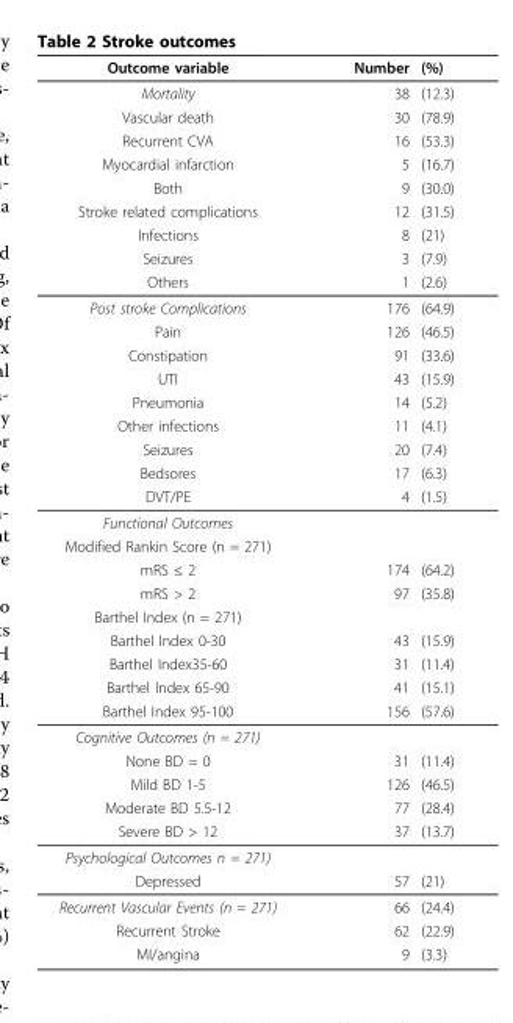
<table><thead><tr><td>Outcome variable</td><td>Number</td><td>(%)</td></tr></thead><tbody><tr><td>Mortality</td><td>38</td><td>(12.3)</td></tr><tr><td>Vascular death</td><td>30</td><td>(78.9)</td></tr><tr><td>Recurrent CVA</td><td>16</td><td>(53.3)</td></tr><tr><td>Myocardial infarction</td><td>5</td><td>(16.7)</td></tr><tr><td>Both</td><td>9</td><td>(30.0)</td></tr><tr><td>Stroke related complications</td><td>12</td><td>(31.5)</td></tr><tr><td>Infections</td><td>8</td><td>(21)</td></tr><tr><td>Seizures</td><td>3</td><td>(7.9)</td></tr><tr><td>Others</td><td>1</td><td>(2.6)</td></tr><tr><td>Post stroke Complications</td><td>176</td><td>(64.9)</td></tr><tr><td>Pain</td><td>126</td><td>(46.5)</td></tr><tr><td>Constipation</td><td>91</td><td>(33.6)</td></tr><tr><td>UTI</td><td>43</td><td>(15.9)</td></tr><tr><td>Pneumonia</td><td>14</td><td>(5.2)</td></tr><tr><td>Other infections</td><td>11</td><td>(4.1)</td></tr><tr><td>Seizures</td><td>20</td><td>(7.4)</td></tr><tr><td>Bedsores</td><td>17</td><td>(6.3)</td></tr><tr><td>DVT/PE</td><td>4</td><td>(1.5)</td></tr><tr><td colspan="3">Functional Outcomes</td></tr><tr><td colspan="3">Modified Rankin Score (n = 271)</td></tr><tr><td>mRS ≤ 2</td><td>174</td><td>(64.2)</td></tr><tr><td>mRS &gt; 2</td><td>97</td><td>(35.8)</td></tr><tr><td colspan="3">Barthel Index (n = 271)</td></tr><tr><td>Barthel Index 0-30</td><td>43</td><td>(15.9)</td></tr><tr><td>Barthel Index35-60</td><td>31</td><td>(11.4)</td></tr><tr><td>Barthel Index 65-90</td><td>41</td><td>(15.1)</td></tr><tr><td>Barthel Index 95-100</td><td>156</td><td>(57.6)</td></tr><tr><td colspan="3">Cognitive Outcomes (n = 271)</td></tr><tr><td>None BD = 0</td><td>31</td><td>(11.4)</td></tr><tr><td>Mild BD 1-5</td><td>126</td><td>(46.5)</td></tr><tr><td>Moderate BD 5.5-12</td><td>77</td><td>(28.4)</td></tr><tr><td>Severe BD &gt; 12</td><td>37</td><td>(13.7)</td></tr><tr><td colspan="3">Psychological Outcomes n = 271)</td></tr><tr><td>Depressed</td><td>57</td><td>(21)</td></tr><tr><td>Recurrent Vascular Events (n = 271)</td><td>66</td><td>(24.4)</td></tr><tr><td>Recurrent Stroke</td><td>62</td><td>(22.9)</td></tr><tr><td>MI/angina</td><td>9</td><td>(3.3)</td></tr></tbody></table>